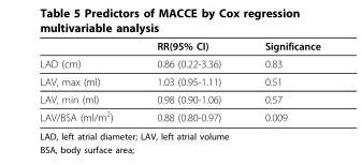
<table><thead><tr><td></td><td>RR(95% CI)</td><td>Significance</td></tr></thead><tbody><tr><td>LAD (cm)</td><td>0.86 (0.22-3.36)</td><td>0.83</td></tr><tr><td>LAV, max (ml)</td><td>1.03 (0.95-1.11)</td><td>0.51</td></tr><tr><td>LAV, min (ml)</td><td>0.98 (0.90-1.06)</td><td>0.57</td></tr><tr><td>LAV/BSA (ml/m<sup>2</sup>)</td><td>0.88 (0.80-0.97)</td><td>0.009</td></tr></tbody></table>